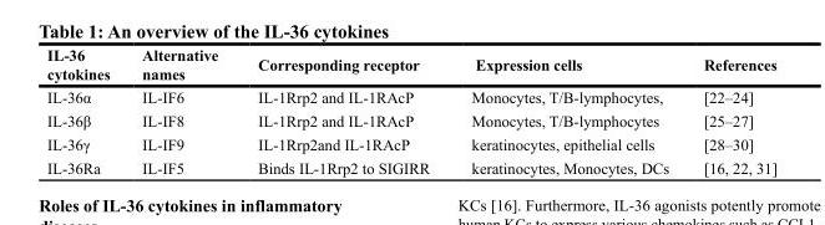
<table><thead><tr><td>IL-36 cytokines</td><td>Alternative names</td><td>Corresponding receptor</td><td>Expression cells</td><td>References</td></tr></thead><tbody><tr><td>IL-36α</td><td>IL-IF6</td><td>IL-1Rrp2 and IL-1RAcP</td><td>Monocytes, T/B-lymphocytes,</td><td>[22–24]</td></tr><tr><td>IL-36β</td><td>IL-IF8</td><td>IL-1Rrp2 and IL-1RAcP</td><td>Monocytes, T/B-lymphocytes</td><td>[25–27]</td></tr><tr><td>IL-36γ</td><td>IL-IF9</td><td>IL-1Rrp2and IL-1RAcP</td><td>keratinocytes, epithelial cells</td><td>[28–30]</td></tr><tr><td>IL-36Ra</td><td>IL-IF5</td><td>Binds IL-1Rrp2 to SIGIRR</td><td>keratinocytes, Monocytes, DCs</td><td>[16, 22, 31]</td></tr></tbody></table>